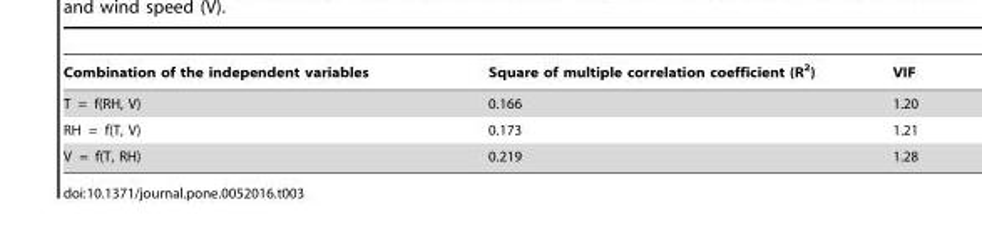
<table><thead><tr><td>Combination of the independent variables</td><td>Square of multiple correlation coefficient (R<sup>2</sup>)</td><td>VIF</td></tr></thead><tbody><tr><td>T = f(RH, V)</td><td>0.166</td><td>1.20</td></tr><tr><td>RH = f(T, V)</td><td>0.173</td><td>1.21</td></tr><tr><td>V = f(T, RH)</td><td>0.219</td><td>1.28</td></tr></tbody></table>